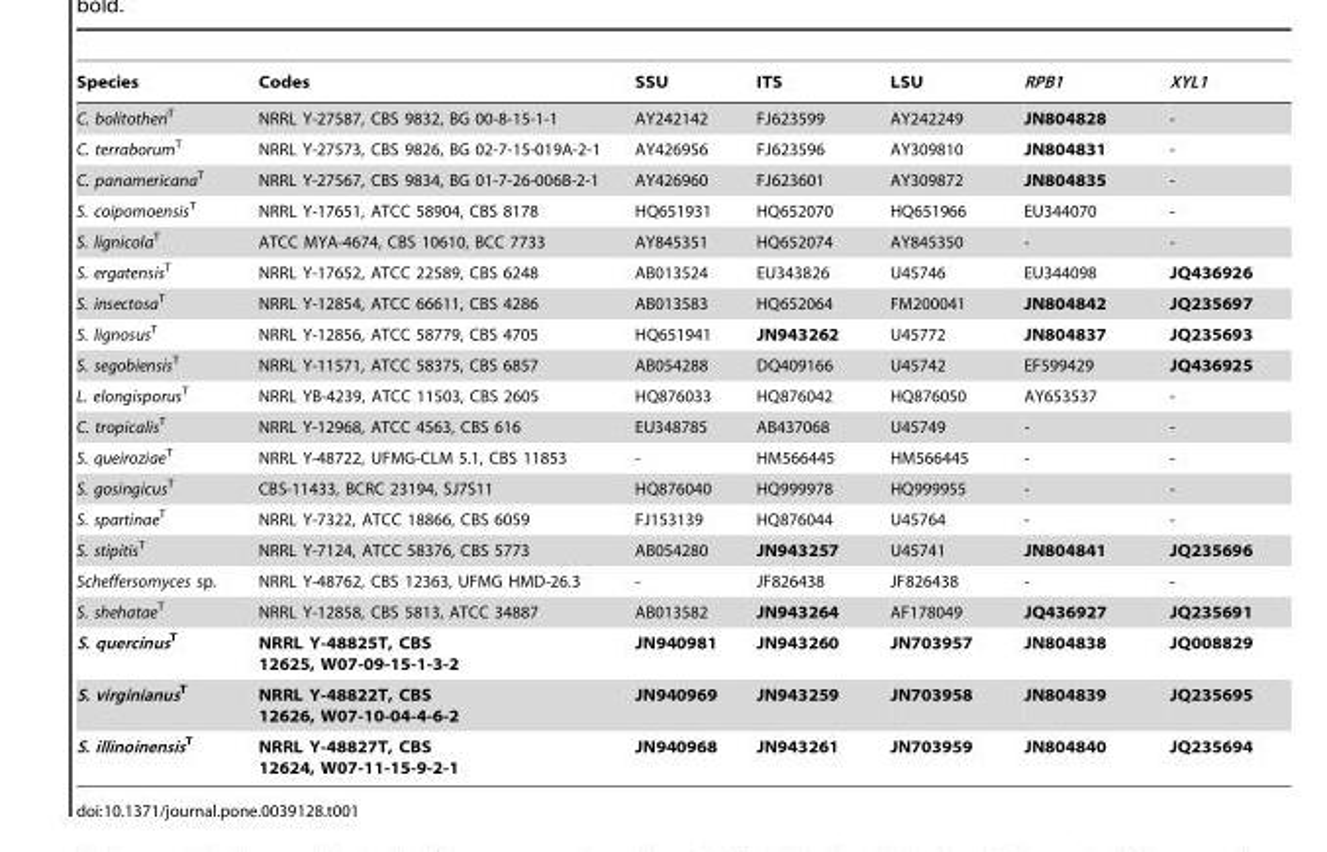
<table><thead><tr><td>Species</td><td>Codes</td><td>SSU</td><td>ITS</td><td>LSU</td><td>RPB1</td><td>XYL1</td></tr></thead><tbody><tr><td>C. bolitotheri<sup>T</sup></td><td>NRRL Y-27587, CBS 9832, BG 00-8-15-1-1</td><td>AY242142</td><td>FJ623599</td><td>AY242249</td><td>JN804828</td><td>-</td></tr><tr><td>C. terraborum<sup>T</sup></td><td>NRRL Y-27573, CBS 9826, BG 02-7-15-019A-2-1</td><td>AY426956</td><td>FJ623596</td><td>AY309810</td><td>JN804831</td><td>-</td></tr><tr><td>C. panamericana<sup>T</sup></td><td>NRRL Y-27567, CBS 9834, BG 01-7-26-006B-2-1</td><td>AY426960</td><td>FJ623601</td><td>AY309872</td><td>JN804835</td><td>-</td></tr><tr><td>S. coipomoensis<sup>T</sup></td><td>NRRL Y-17651, ATCC 58904, CBS 8178</td><td>HQ651931</td><td>HQ652070</td><td>HQ651966</td><td>EU344070</td><td>-</td></tr><tr><td>S. lignicola<sup>T</sup></td><td>ATCC MYA-4674, CBS 10610, BCC 7733</td><td>AY845351</td><td>HQ652074</td><td>AY845350</td><td>-</td><td>-</td></tr><tr><td>S. ergatensis<sup>T</sup></td><td>NRRL Y-17652, ATCC 22589, CBS 6248</td><td>AB013524</td><td>EU343826</td><td>U45746</td><td>EU344098</td><td>JQ436926</td></tr><tr><td>S. insectosa<sup>T</sup></td><td>NRRL Y-12854, ATCC 66611, CBS 4286</td><td>AB013583</td><td>HQ652064</td><td>FM200041</td><td>JN804842</td><td>JQ235697</td></tr><tr><td>S. lignosus<sup>T</sup></td><td>NRRL Y-12856, ATCC 58779, CBS 4705</td><td>HQ651941</td><td>JN943262</td><td>U45772</td><td>JN804837</td><td>JQ235693</td></tr><tr><td>S. segobiensis<sup>T</sup></td><td>NRRL Y-11571, ATCC 58375, CBS 6857</td><td>AB054288</td><td>DQ409166</td><td>U45742</td><td>EF599429</td><td>JQ436925</td></tr><tr><td>L. elongisporus<sup>T</sup></td><td>NRRL YB-4239, ATCC 11503, CBS 2605</td><td>HQ876033</td><td>HQ876042</td><td>HQ876050</td><td>AY653537</td><td>-</td></tr><tr><td>C. tropicalis<sup>T</sup></td><td>NRRL Y-12968, ATCC 4563, CBS 616</td><td>EU348785</td><td>AB437068</td><td>U45749</td><td>-</td><td>-</td></tr><tr><td>S. queiroziae<sup>T</sup></td><td>NRRL Y-48722, UFMG-CLM 5.1, CBS 11853</td><td>-</td><td>HM566445</td><td>HM566445</td><td>-</td><td>-</td></tr><tr><td>S. gosingicus<sup>T</sup></td><td>CBS-11433, BCRC 23194, SJ7S11</td><td>HQ876040</td><td>HQ999978</td><td>HQ999955</td><td>-</td><td>-</td></tr><tr><td>S. spartinae<sup>T</sup></td><td>NRRL Y-7322, ATCC 18866, CBS 6059</td><td>FJ153139</td><td>HQ876044</td><td>U45764</td><td>-</td><td>-</td></tr><tr><td>S. stipitis<sup>T</sup></td><td>NRRL Y-7124, ATCC 58376, CBS 5773</td><td>AB054280</td><td>JN943257</td><td>U45741</td><td>JN804841</td><td>JQ235696</td></tr><tr><td>Scheffersomyces sp.</td><td>NRRL Y-48762, CBS 12363, UFMG HMD-26.3</td><td>-</td><td>JF826438</td><td>JF826438</td><td>-</td><td>-</td></tr><tr><td>S. shehatae<sup>T</sup></td><td>NRRL Y-12858, CBS 5813, ATCC 34887</td><td>AB013582</td><td>JN943264</td><td>AF178049</td><td>JQ436927</td><td>JQ235691</td></tr><tr><td>S. quercinus<sup>T</sup></td><td>NRRL Y-48825T, CBS 12625, W07-09-15-1-3-2</td><td>JN940981</td><td>JN943260</td><td>JN703957</td><td>JN804838</td><td>JQ008829</td></tr><tr><td>S. virginianus<sup>T</sup></td><td>NRRL Y-48822T, CBS 12626, W07-10-04-4-6-2</td><td>JN940969</td><td>JN943259</td><td>JN703958</td><td>JN804839</td><td>JQ235695</td></tr><tr><td>S. illinoinensis<sup>T</sup></td><td>NRRL Y-48827T, CBS 12624, W07-11-15-9-2-1</td><td>JN940968</td><td>JN943261</td><td>JN703959</td><td>JN804840</td><td>JQ235694</td></tr></tbody></table>